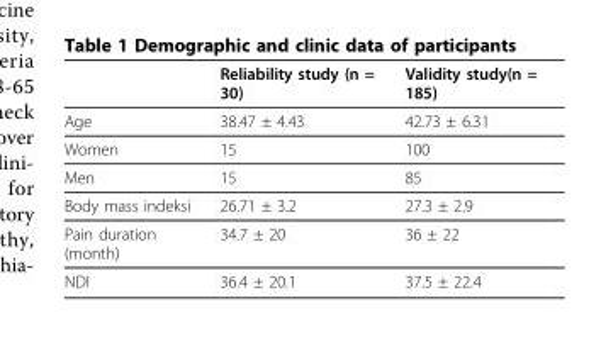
<table><thead><tr><td></td><td>Reliability study (n = 30)</td><td>Validity study(n = 185)</td></tr></thead><tbody><tr><td>Age</td><td>38.47 ± 4.43</td><td>42.73 ± 6.31</td></tr><tr><td>Women</td><td>15</td><td>100</td></tr><tr><td>Men</td><td>15</td><td>85</td></tr><tr><td>Body mass indeksi</td><td>26.71 ± 3.2</td><td>27.3 ± 2.9</td></tr><tr><td>Pain duration (month)</td><td>34.7 ± 20</td><td>36 ± 22</td></tr><tr><td>NDI</td><td>36.4 ± 20.1</td><td>37.5 ± 22.4</td></tr></tbody></table>